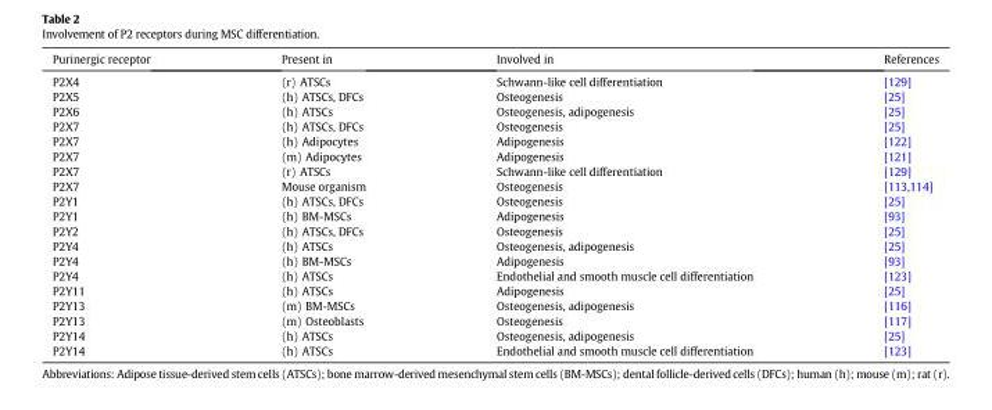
<table><thead><tr><td>Purinergic receptor</td><td>Present in</td><td>Involved in</td><td>References</td></tr></thead><tbody><tr><td>P2X4</td><td>(r) ATSCs</td><td>Schwann-like cell differentiation</td><td>[129]</td></tr><tr><td>P2X5</td><td>(h) ATSCs, DFCs</td><td>Osteogenesis</td><td>[25]</td></tr><tr><td>P2X6</td><td>(h) ATSCs</td><td>Osteogenesis, adipogenesis</td><td>[25]</td></tr><tr><td>P2X7</td><td>(h) ATSCs, DFCs</td><td>Osteogenesis</td><td>[25]</td></tr><tr><td>P2X7</td><td>(h) Adipocytes</td><td>Adipogenesis</td><td>[122]</td></tr><tr><td>P2X7</td><td>(m) Adipocytes</td><td>Adipogenesis</td><td>[121]</td></tr><tr><td>P2X7</td><td>(r) ATSCs</td><td>Schwann-like cell differentiation</td><td>[129]</td></tr><tr><td>P2X7</td><td>Mouse organism</td><td>Osteogenesis</td><td>[113,114]</td></tr><tr><td>P2Y1</td><td>(h) ATSCs, DFCs</td><td>Osteogenesis</td><td>[25]</td></tr><tr><td>P2Y1</td><td>(h) BM-MSCs</td><td>Adipogenesis</td><td>[93]</td></tr><tr><td>P2Y2</td><td>(h) ATSCs, DFCs</td><td>Osteogenesis</td><td>[25]</td></tr><tr><td>P2Y4</td><td>(h) ATSCs</td><td>Osteogenesis, adipogenesis</td><td>[25]</td></tr><tr><td>P2Y4</td><td>(h) BM-MSCs</td><td>Adipogenesis</td><td>[93]</td></tr><tr><td>P2Y4</td><td>(h) ATSCs</td><td>Endothelial and smooth muscle cell differentiation</td><td>[123]</td></tr><tr><td>P2Y11</td><td>(h) ATSCs</td><td>Adipogenesis</td><td>[25]</td></tr><tr><td>P2Y13</td><td>(m) BM-MSCs</td><td>Osteogenesis, adipogenesis</td><td>[116]</td></tr><tr><td>P2Y13</td><td>(m) Osteoblasts</td><td>Osteogenesis</td><td>[117]</td></tr><tr><td>P2Y14</td><td>(h) ATSCs</td><td>Osteogenesis, adipogenesis</td><td>[25]</td></tr><tr><td>P2Y14</td><td>(h) ATSCs</td><td>Endothelial and smooth muscle cell differentiation</td><td>[123]</td></tr></tbody></table>